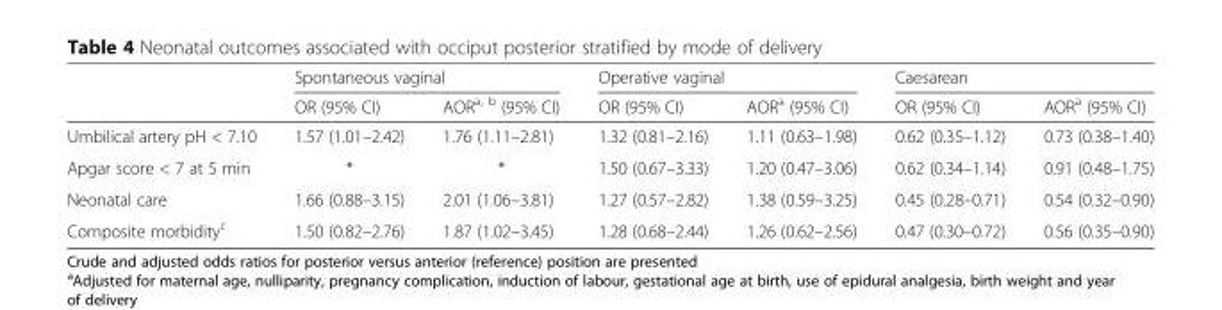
<table><thead><tr><td rowspan="2"></td><td colspan="2">Spontaneous vaginal</td><td colspan="2">Operative vaginal</td><td colspan="2">Caesarean</td></tr><tr><td>OR (95% CI)</td><td>AOR<sup>a, b</sup> (95% CI)</td><td>OR (95% CI)</td><td>AOR<sup>a</sup> (95% CI)</td><td>OR (95% CI)</td><td>AOR<sup>a</sup> (95% CI)</td></tr></thead><tbody><tr><td>Umbilical artery pH &lt; 7.10</td><td>1.57 (1.01–2.42)</td><td>1.76 (1.11–2.81)</td><td>1.32 (0.81–2.16)</td><td>1.11 (0.63–1.98)</td><td>0.62 (0.35–1.12)</td><td>0.73 (0.38–1.40)</td></tr><tr><td>Apgar score &lt; 7 at 5 min</td><td>*</td><td>*</td><td>1.50 (0.67–3.33)</td><td>1.20 (0.47–3.06)</td><td>0.62 (0.34–1.14)</td><td>0.91 (0.48–1.75)</td></tr><tr><td>Neonatal care</td><td>1.66 (0.88–3.15)</td><td>2.01 (1.06–3.81)</td><td>1.27 (0.57–2.82)</td><td>1.38 (0.59–3.25)</td><td>0.45 (0.28–0.71)</td><td>0.54 (0.32–0.90)</td></tr><tr><td>Composite morbidity<sup>c</sup></td><td>1.50 (0.82–2.76)</td><td>1.87 (1.02–3.45)</td><td>1.28 (0.68–2.44)</td><td>1.26 (0.62–2.56)</td><td>0.47 (0.30–0.72)</td><td>0.56 (0.35–0.90)</td></tr></tbody></table>